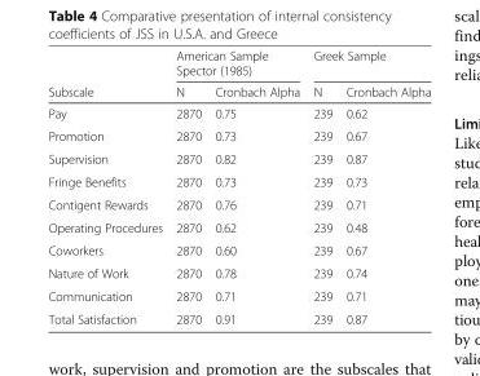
<table><thead><tr><td rowspan="2">Subscale</td><td colspan="2">American Sample Spector (1985)</td><td colspan="2">Greek Sample</td></tr><tr><td>N</td><td>Cronbach Alpha</td><td>N</td><td>Cronbach Alpha</td></tr></thead><tbody><tr><td>Pay</td><td>2870</td><td>0.75</td><td>239</td><td>0.62</td></tr><tr><td>Promotion</td><td>2870</td><td>0.73</td><td>239</td><td>0.67</td></tr><tr><td>Supervision</td><td>2870</td><td>0.82</td><td>239</td><td>0.87</td></tr><tr><td>Fringe Benefits</td><td>2870</td><td>0.73</td><td>239</td><td>0.73</td></tr><tr><td>Contigent Rewards</td><td>2870</td><td>0.76</td><td>239</td><td>0.71</td></tr><tr><td>Operating Procedures</td><td>2870</td><td>0.62</td><td>239</td><td>0.48</td></tr><tr><td>Coworkers</td><td>2870</td><td>0.60</td><td>239</td><td>0.67</td></tr><tr><td>Nature of Work</td><td>2870</td><td>0.78</td><td>239</td><td>0.74</td></tr><tr><td>Communication</td><td>2870</td><td>0.71</td><td>239</td><td>0.71</td></tr><tr><td>Total Satisfaction</td><td>2870</td><td>0.91</td><td>239</td><td>0.87</td></tr></tbody></table>